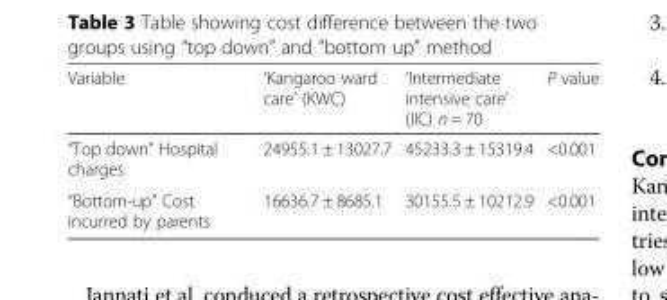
<table><thead><tr><td>Variable</td><td>‘Kangaroo ward care’ (KWC)</td><td>‘Intermediate intensive care’ (IIC) n = 70</td><td>P value</td></tr></thead><tbody><tr><td>“Top down” Hospital charges</td><td>24955.1 ± 13027.7</td><td>45233.3 ± 15319.4</td><td>&lt;0.001</td></tr><tr><td>“Bottom-up” Cost incurred by parents</td><td>16636.7 ± 8685.1</td><td>30155.5 ± 10212.9</td><td>&lt;0.001</td></tr></tbody></table>